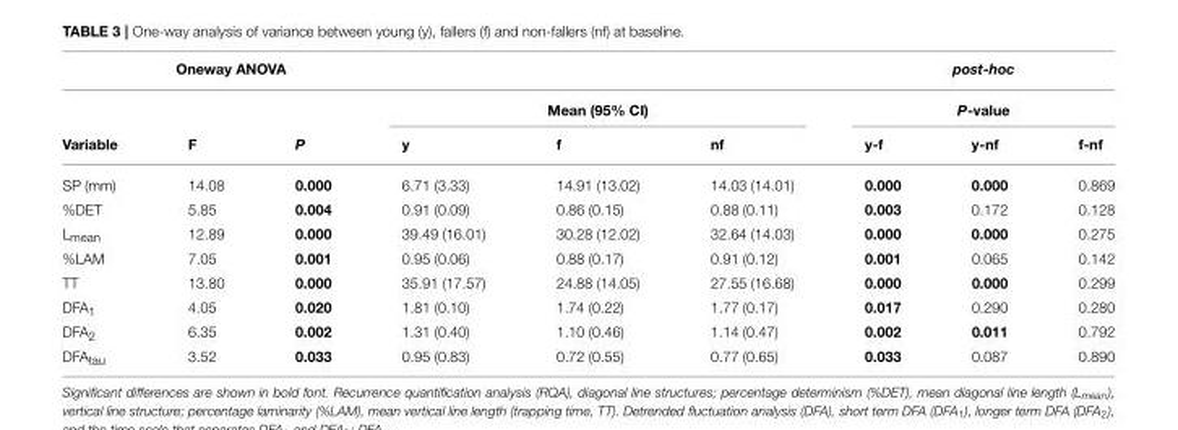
<table><thead><tr><td rowspan="3">Variable</td><td colspan="5">Oneway ANOVA</td><td rowspan="2" colspan="3">post-hoc P-value</td></tr><tr><td rowspan="2">F</td><td rowspan="2">P</td><td colspan="3">Mean (95% CI)</td></tr><tr><td>y</td><td>f</td><td>nf</td><td>y-f</td><td>y-nf</td><td>f-nf</td></tr></thead><tbody><tr><td>SP (mm)</td><td>14.08</td><td>0.000</td><td>6.71 (3.33)</td><td>14.91 (13.02)</td><td>14.03 (14.01)</td><td>0.000</td><td>0.000</td><td>0.869</td></tr><tr><td>%DET</td><td>5.85</td><td>0.004</td><td>0.91 (0.09)</td><td>0.86 (0.15)</td><td>0.88 (0.11)</td><td>0.003</td><td>0.172</td><td>0.128</td></tr><tr><td>L<sub>mean</sub></td><td>12.89</td><td>0.000</td><td>39.49 (16.01)</td><td>30.28 (12.02)</td><td>32.64 (14.03)</td><td>0.000</td><td>0.000</td><td>0.275</td></tr><tr><td>%LAM</td><td>7.05</td><td>0.001</td><td>0.95 (0.06)</td><td>0.88 (0.17)</td><td>0.91 (0.12)</td><td>0.001</td><td>0.065</td><td>0.142</td></tr><tr><td>TT</td><td>13.80</td><td>0.000</td><td>35.91 (17.57)</td><td>24.88 (14.05)</td><td>27.55 (16.68)</td><td>0.000</td><td>0.000</td><td>0.299</td></tr><tr><td>DFA<sub>1</sub></td><td>4.05</td><td>0.020</td><td>1.81 (0.10)</td><td>1.74 (0.22)</td><td>1.77 (0.17)</td><td>0.017</td><td>0.290</td><td>0.280</td></tr><tr><td>DFA<sub>2</sub></td><td>6.35</td><td>0.002</td><td>1.31 (0.40)</td><td>1.10 (0.46)</td><td>1.14 (0.47)</td><td>0.002</td><td>0.011</td><td>0.792</td></tr><tr><td>DFA<sub>tau</sub></td><td>3.52</td><td>0.033</td><td>0.95 (0.83)</td><td>0.72 (0.55)</td><td>0.77 (0.65)</td><td>0.033</td><td>0.087</td><td>0.890</td></tr></tbody></table>